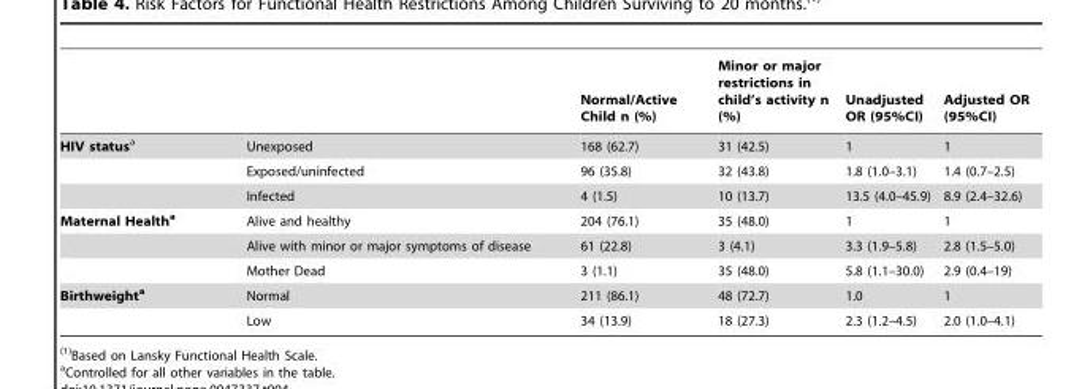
<table><thead><tr><td></td><td></td><td>Normal/Active Child n (%)</td><td>Minor or major restrictions in child’s activity n (%)</td><td>Unadjusted OR (95%CI)</td><td>Adjusted OR (95%CI)</td></tr></thead><tbody><tr><td rowspan="3">HIV statusa</td><td>Unexposed</td><td>168 (62.7)</td><td>31 (42.5)</td><td>1</td><td>1</td></tr><tr><td>Exposed/uninfected</td><td>96 (35.8)</td><td>32 (43.8)</td><td>1.8 (1.0–3.1)</td><td>1.4 (0.7–2.5)</td></tr><tr><td>Infected</td><td>4 (1.5)</td><td>10 (13.7)</td><td>13.5 (4.0–45.9)</td><td>8.9 (2.4–32.6)</td></tr><tr><td rowspan="3">Maternal Healtha</td><td>Alive and healthy</td><td>204 (76.1)</td><td>35 (48.0)</td><td>1</td><td>1</td></tr><tr><td>Alive with minor or major symptoms of disease</td><td>61 (22.8)</td><td>3 (4.1)</td><td>3.3 (1.9–5.8)</td><td>2.8 (1.5–5.0)</td></tr><tr><td>Mother Dead</td><td>3 (1.1)</td><td>35 (48.0)</td><td>5.8 (1.1–30.0)</td><td>2.9 (0.4–19)</td></tr><tr><td rowspan="2">Birthweighta</td><td>Normal</td><td>211 (86.1)</td><td>48 (72.7)</td><td>1.0</td><td>1</td></tr><tr><td>Low</td><td>34 (13.9)</td><td>18 (27.3)</td><td>2.3 (1.2–4.5)</td><td>2.0 (1.0–4.1)</td></tr></tbody></table>